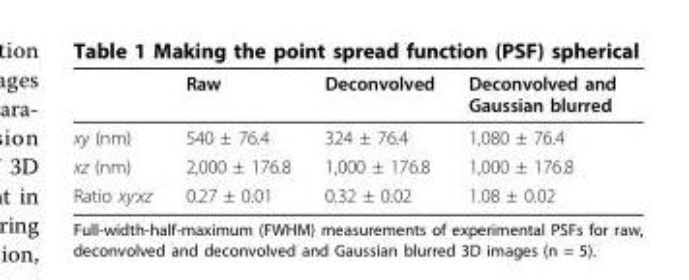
<table><thead><tr><td></td><td>Raw</td><td>Deconvolved</td><td>Deconvolved and Gaussian blurred</td></tr></thead><tbody><tr><td>xy (nm)</td><td>540 ± 76.4</td><td>324 ± 76.4</td><td>1,080 ± 76.4</td></tr><tr><td>xz (nm)</td><td>2,000 ± 176.8</td><td>1,000 ± 176.8</td><td>1,000 ± 176.8</td></tr><tr><td>Ratio xy:xz</td><td>0.27 ± 0.01</td><td>0.32 ± 0.02</td><td>1.08 ± 0.02</td></tr></tbody></table>